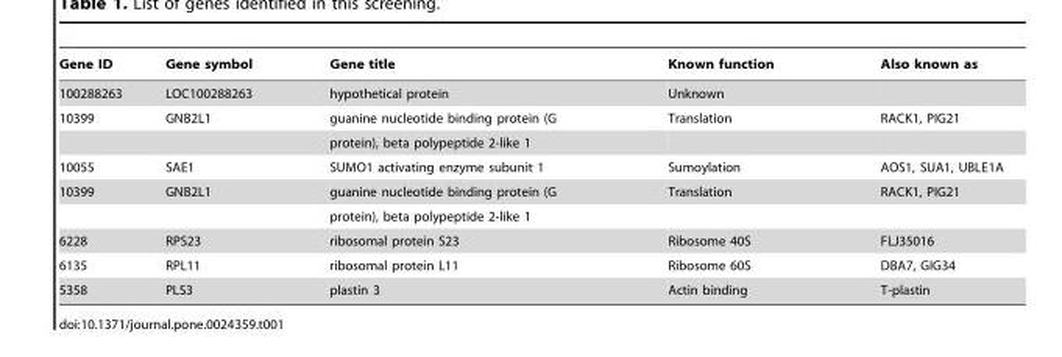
<table><thead><tr><td>Gene ID</td><td>Gene symbol</td><td>Gene title</td><td>Known function</td><td>Also known as</td></tr></thead><tbody><tr><td>100288263</td><td>LOC100288263</td><td>hypothetical protein</td><td>Unknown</td><td></td></tr><tr><td rowspan="2">10399</td><td>GNB2L1</td><td>guanine nucleotide binding protein (G</td><td>Translation</td><td>RACK1, PIG21</td></tr><tr><td></td><td>protein), beta polypeptide 2-like 1</td><td></td><td></td></tr><tr><td>10055</td><td>SAE1</td><td>SUMO1 activating enzyme subunit 1</td><td>Sumoylation</td><td>AOS1, SUA1, UBLE1A</td></tr><tr><td rowspan="2">10399</td><td>GNB2L1</td><td>guanine nucleotide binding protein (G</td><td>Translation</td><td>RACK1, PIG21</td></tr><tr><td></td><td>protein), beta polypeptide 2-like 1</td><td></td><td></td></tr><tr><td>6228</td><td>RPS23</td><td>ribosomal protein S23</td><td>Ribosome 40S</td><td>FLJ35016</td></tr><tr><td>6135</td><td>RPL11</td><td>ribosomal protein L11</td><td>Ribosome 60S</td><td>DBA7, GIG34</td></tr><tr><td>5358</td><td>PLS3</td><td>plastin 3</td><td>Actin binding</td><td>T-plastin</td></tr></tbody></table>